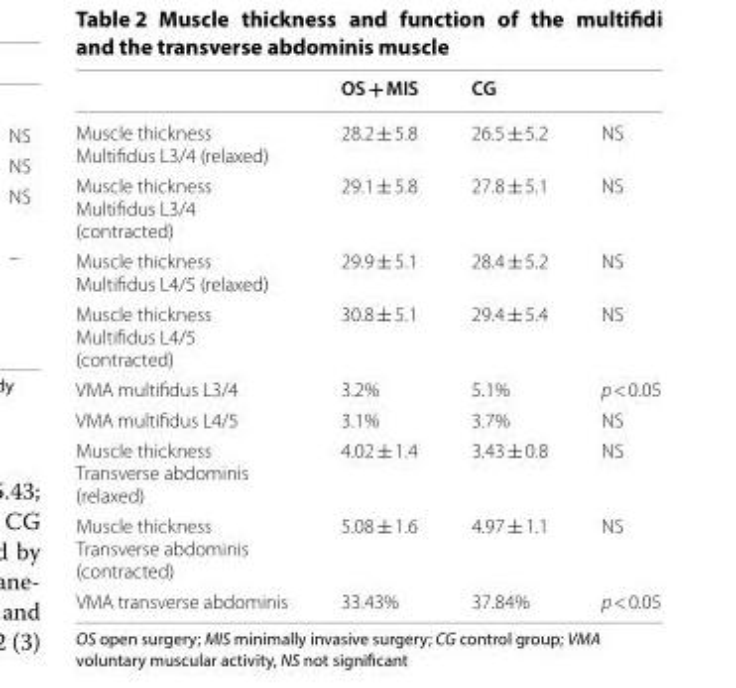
<table><thead><tr><td></td><td>OS + MIS</td><td>CG</td><td></td></tr></thead><tbody><tr><td>Muscle thickness Multifidus L3/4 (relaxed)</td><td>28.2 ± 5.8</td><td>26.5 ± 5.2</td><td>NS</td></tr><tr><td>Muscle thickness Multifidus L3/4 (contracted)</td><td>29.1 ± 5.8</td><td>27.8 ± 5.1</td><td>NS</td></tr><tr><td>Muscle thickness Multifidus L4/5 (relaxed)</td><td>29.9 ± 5.1</td><td>28.4 ± 5.2</td><td>NS</td></tr><tr><td>Muscle thickness Multifidus L4/5 (contracted)</td><td>30.8 ± 5.1</td><td>29.4 ± 5.4</td><td>NS</td></tr><tr><td>VMA multifidus L3/4</td><td>3.2%</td><td>5.1%</td><td>p &lt; 0.05</td></tr><tr><td>VMA multifidus L4/5</td><td>3.1%</td><td>3.7%</td><td>NS</td></tr><tr><td>Muscle thickness Transverse abdominis (relaxed)</td><td>4.02 ± 1.4</td><td>3.43 ± 0.8</td><td>NS</td></tr><tr><td>Muscle thickness Transverse abdominis (contracted)</td><td>5.08 ± 1.6</td><td>4.97 ± 1.1</td><td>NS</td></tr><tr><td>VMA transverse abdominis</td><td>33.43%</td><td>37.84%</td><td>p &lt; 0.05</td></tr></tbody></table>